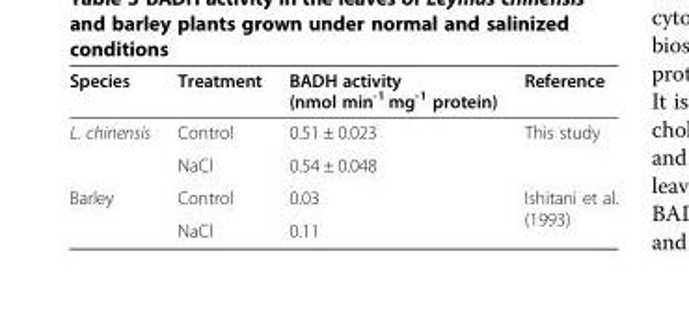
<table><thead><tr><td>Species</td><td>Treatment</td><td>BADH activity (nmol min<sup>-1</sup> mg<sup>-1</sup> protein)</td><td>Reference</td></tr></thead><tbody><tr><td rowspan="2">L. chinensis</td><td>Control</td><td>0.51 ± 0.023</td><td rowspan="2">This study</td></tr><tr><td>NaCl</td><td>0.54 ± 0.048</td></tr><tr><td rowspan="2">Barley</td><td>Control</td><td>0.03</td><td rowspan="2">Ishitani et al. (1993)</td></tr><tr><td>NaCl</td><td>0.11</td></tr></tbody></table>